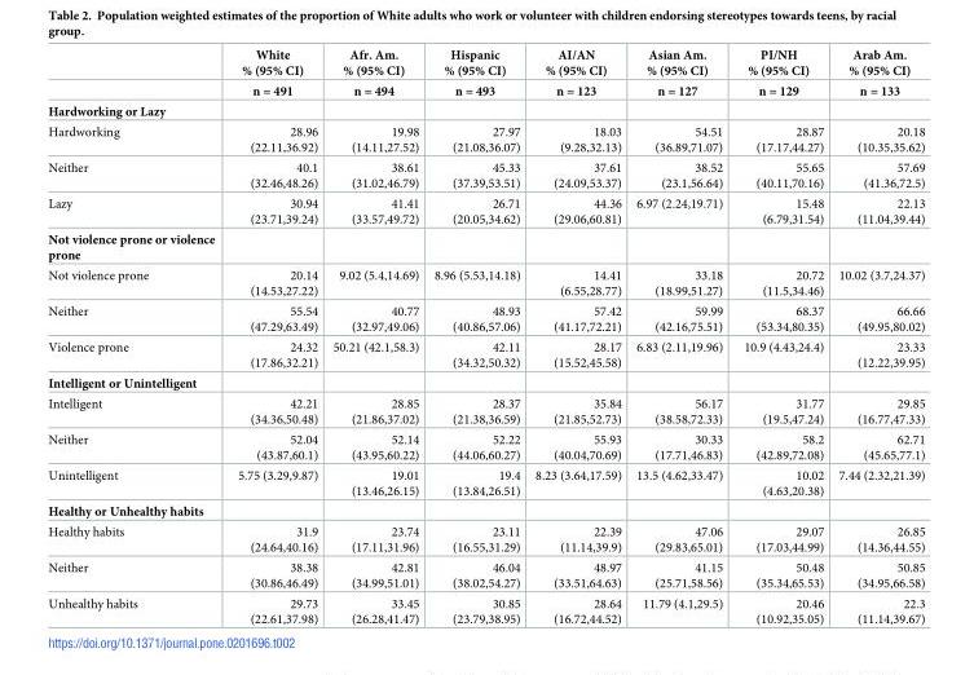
<table><thead><tr><td rowspan="2"></td><td rowspan="2">White % (95% CI) n = 491</td><td rowspan="2">Afr. Am. % (95% CI) n = 494</td><td rowspan="2">Hispanic % (95% CI) n = 493</td><td rowspan="2">AI/AN % (95% CI) n = 123</td><td rowspan="2">Asian Am. % (95% CI) n = 127</td><td rowspan="2">PI/NH % (95% CI) n = 129</td><td rowspan="2">Arab Am. % (95% CI) n = 133</td></tr><tr></tr></thead><tbody><tr><td colspan="8">Hardworking or Lazy</td></tr><tr><td>Hardworking</td><td>28.96 (22.11,36.92)</td><td>19.98 (14.11,27.52)</td><td>27.97 (21.08,36.07)</td><td>18.03 (9.28,32.13)</td><td>54.51 (36.89,71.07)</td><td>28.87 (17.17,44.27)</td><td>20.18 (10.35,35.62)</td></tr><tr><td>Neither</td><td>40.1 (32.46,48.26)</td><td>38.61 (31.02,46.79)</td><td>45.33 (37.39,53.51)</td><td>37.61 (24.09,53.37)</td><td>38.52 (23.1,56.64)</td><td>55.65 (40.11,70.16)</td><td>57.69 (41.36,72.5)</td></tr><tr><td>Lazy</td><td>30.94 (23.71,39.24)</td><td>41.41 (33.57,49.72)</td><td>26.71 (20.05,34.62)</td><td>44.36 (29.06,60.81)</td><td>6.97 (2.24,19.71)</td><td>15.48 (6.79,31.54)</td><td>22.13 (11.04,39.44)</td></tr><tr><td colspan="8">Not violence prone or violence prone</td></tr><tr><td>Not violence prone</td><td>20.14 (14.53,27.22)</td><td>9.02 (5.4,14.69)</td><td>8.96 (5.53,14.18)</td><td>14.41 (6.55,28.77)</td><td>33.18 (18.99,51.27)</td><td>20.72 (11.5,34.46)</td><td>10.02 (3.7,24.37)</td></tr><tr><td>Neither</td><td>55.54 (47.29,63.49)</td><td>40.77 (32.97,49.06)</td><td>48.93 (40.86,57.06)</td><td>57.42 (41.17,72.21)</td><td>59.99 (42.16,75.51)</td><td>68.37 (53.34,80.35)</td><td>66.66 (49.95,80.02)</td></tr><tr><td>Violence prone</td><td>24.32 (17.86,32.21)</td><td>50.21 (42.1,58.3)</td><td>42.11 (34.32,50.32)</td><td>28.17 (15.52,45.58)</td><td>6.83 (2.11,19.96)</td><td>10.9 (4.43,24.4)</td><td>23.33 (12.22,39.95)</td></tr><tr><td colspan="8">Intelligent or Unintelligent</td></tr><tr><td>Intelligent</td><td>42.21 (34.36,50.48)</td><td>28.85 (21.86,37.02)</td><td>28.37 (21.38,36.59)</td><td>35.84 (21.85,52.73)</td><td>56.17 (38.58,72.33)</td><td>31.77 (19.5,47.24)</td><td>29.85 (16.77,47.33)</td></tr><tr><td>Neither</td><td>52.04 (43.87,60.1)</td><td>52.14 (43.95,60.22)</td><td>52.22 (44.06,60.27)</td><td>55.93 (40.04,70.69)</td><td>30.33 (17.71,46.83)</td><td>58.2 (42.89,72.08)</td><td>62.71 (45.65,77.1)</td></tr><tr><td>Unintelligent</td><td>5.75 (3.29,9.87)</td><td>19.01 (13.46,26.15)</td><td>19.4 (13.84,26.51)</td><td>8.23 (3.64,17.59)</td><td>13.5 (4.62,33.47)</td><td>10.02 (4.63,20.38)</td><td>7.44 (2.32,21.39)</td></tr><tr><td colspan="8">Healthy or Unhealthy habits</td></tr><tr><td>Healthy habits</td><td>31.9 (24.64,40.16)</td><td>23.74 (17.11,31.96)</td><td>23.11 (16.55,31.29)</td><td>22.39 (11.14,39.9)</td><td>47.06 (29.83,65.01)</td><td>29.07 (17.03,44.99)</td><td>26.85 (14.36,44.55)</td></tr><tr><td>Neither</td><td>38.38 (30.86,46.49)</td><td>42.81 (34.99,51.01)</td><td>46.04 (38.02,54.27)</td><td>48.97 (33.51,64.63)</td><td>41.15 (25.71,58.56)</td><td>50.48 (35.34,65.53)</td><td>50.85 (34.95,66.58)</td></tr><tr><td>Unhealthy habits</td><td>29.73 (22.61,37.98)</td><td>33.45 (26.28,41.47)</td><td>30.85 (23.79,38.95)</td><td>28.64 (16.72,44.52)</td><td>11.79 (4.1,29.5)</td><td>20.46 (10.92,35.05)</td><td>22.3 (11.14,39.67)</td></tr></tbody></table>